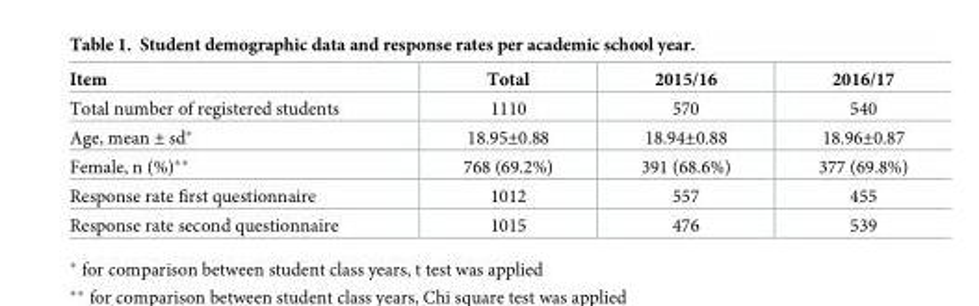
<table><thead><tr><td>Item</td><td>Total</td><td>2015/16</td><td>2016/17</td></tr></thead><tbody><tr><td>Total number of registered students</td><td>1110</td><td>570</td><td>540</td></tr><tr><td>Age, mean ± sd*</td><td>18.95±0.88</td><td>18.94±0.88</td><td>18.96±0.87</td></tr><tr><td>Female, n (%)**</td><td>768 (69.2%)</td><td>391 (68.6%)</td><td>377 (69.8%)</td></tr><tr><td>Response rate first questionnaire</td><td>1012</td><td>557</td><td>455</td></tr><tr><td>Response rate second questionnaire</td><td>1015</td><td>476</td><td>539</td></tr></tbody></table>